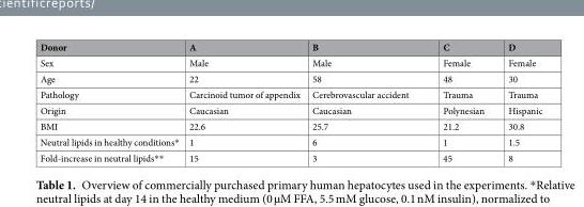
<table><thead><tr><td>Donor</td><td>A</td><td>B</td><td>C</td><td>D</td></tr></thead><tbody><tr><td>Sex</td><td>Male</td><td>Male</td><td>Female</td><td>Female</td></tr><tr><td>Age</td><td>22</td><td>58</td><td>48</td><td>30</td></tr><tr><td>Pathology</td><td>Carcinoid tumor of appendix</td><td>Cerebrovascular accident</td><td>Trauma</td><td>Trauma</td></tr><tr><td>Origin</td><td>Caucasian</td><td>Caucasian</td><td>Polynesian</td><td>Hispanic</td></tr><tr><td>BMI</td><td>22.6</td><td>25.7</td><td>21.2</td><td>30.8</td></tr><tr><td>Neutral lipids in healthy conditions*</td><td>1</td><td>6</td><td>1</td><td>1.5</td></tr><tr><td>Fold-increase in neutral lipids**</td><td>15</td><td>3</td><td>45</td><td>8</td></tr></tbody></table>